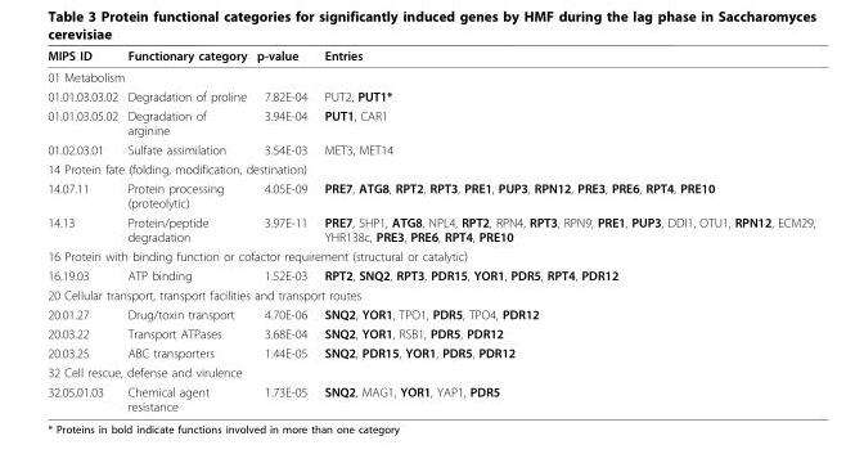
<table><thead><tr><td>MIPS ID</td><td>Functionary category</td><td>p-value</td><td>Entries</td></tr></thead><tbody><tr><td colspan="4">01 Metabolism</td></tr><tr><td>01.01.03.03.02</td><td>Degradation of proline</td><td>7.82E-04</td><td>PUT2, PUT1*</td></tr><tr><td>01.01.03.05.02</td><td>Degradation of arginine</td><td>3.94E-04</td><td>PUT1, CAR1</td></tr><tr><td>01.02.03.01</td><td>Sulfate assimilation</td><td>3.54E-03</td><td>MET3, MET14</td></tr><tr><td colspan="4">14 Protein fate (folding, modification, destination)</td></tr><tr><td>14.07.11</td><td>Protein processing (proteolytic)</td><td>4.05E-09</td><td>PRE7, ATG8, RPT2, RPT3, PRE1, PUP3, RPN12, PRE3, PRE6, RPT4, PRE10</td></tr><tr><td>14.13</td><td>Protein/peptide degradation</td><td>3.97E-11</td><td>PRE7, SHP1, ATG8, NPL4, RPT2, RPN4, RPT3, RPN9, PRE1, PUP3, DDI1, OTU1, RPN12, ECM29, YHR138c, PRE3, PRE6, RPT4, PRE10</td></tr><tr><td colspan="4">16 Protein with binding function or cofactor requirement (structural or catalytic)</td></tr><tr><td>16.19.03</td><td>ATP binding</td><td>1.52E-03</td><td>RPT2, SNQ2, RPT3, PDR15, YOR1, PDR5, RPT4, PDR12</td></tr><tr><td colspan="4">20 Cellular transport, transport facilities and transport routes</td></tr><tr><td>20.01.27</td><td>Drug/toxin transport</td><td>4.70E-06</td><td>SNQ2, YOR1, TPO1, PDR5, TPO4, PDR12</td></tr><tr><td>20.03.22</td><td>Transport ATPases</td><td>3.68E-04</td><td>SNQ2, YOR1, RSB1, PDR5, PDR12</td></tr><tr><td>20.03.25</td><td>ABC transporters</td><td>1.44E-05</td><td>SNQ2, PDR15, YOR1, PDR5, PDR12</td></tr><tr><td colspan="4">32 Cell rescue, defense and virulence</td></tr><tr><td>32.05.01.03</td><td>Chemical agent resistance</td><td>1.73E-05</td><td>SNQ2, MAG1, YOR1, YAP1, PDR5</td></tr></tbody></table>